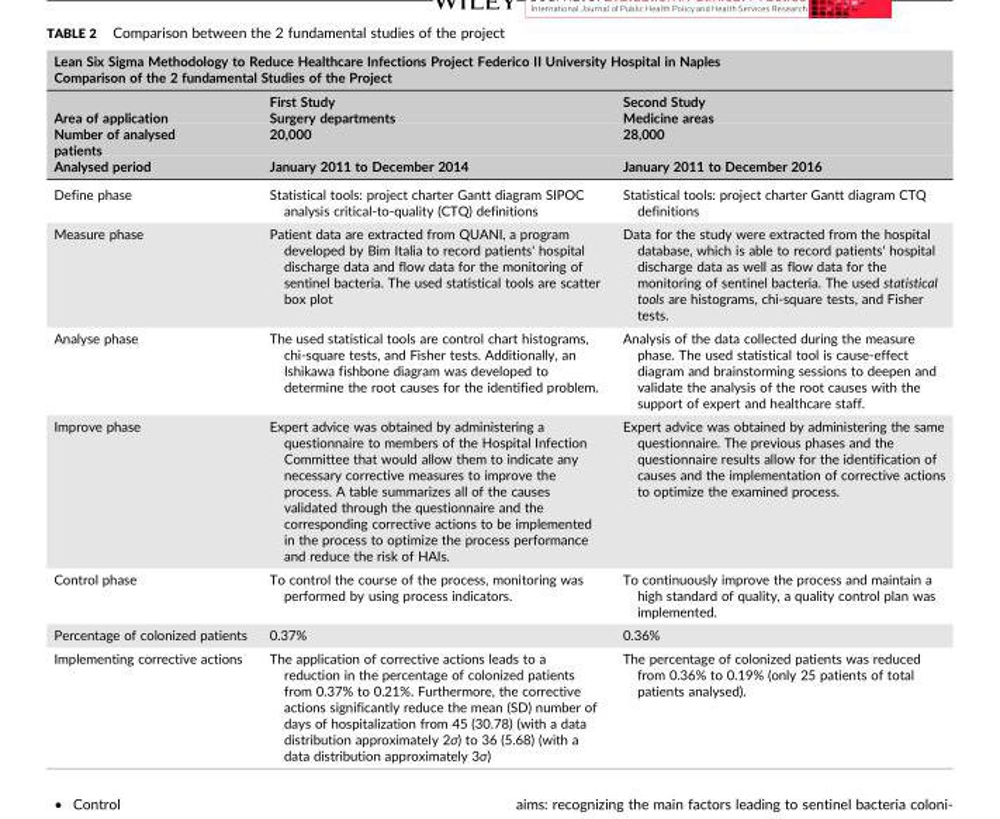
<table><thead><tr><td rowspan="2" colspan="3">Lean Six Sigma Methodology to Reduce Healthcare Infections Project Federico II University Hospital in Naples Comparison of the 2 fundamental Studies of the Project</td></tr><tr></tr><tr><td rowspan="4">Area of application Number of analysed patients Analysed period</td><td rowspan="4">First Study Surgery departments 20,000 January 2011 to December 2014</td><td rowspan="4">Second Study Medicine areas 28,000 January 2011 to December 2016</td></tr><tr></tr><tr></tr><tr></tr></thead><tbody><tr><td>Define phase</td><td>Statistical tools: project charter Gantt diagram SIPOC analysis critical‐to‐quality (CTQ) definitions</td><td>Statistical tools: project charter Gantt diagram CTQ definitions</td></tr><tr><td>Measure phase</td><td>Patient data are extracted from QUANI, a program developed by Bim Italia to record patients&#x27; hospital discharge data and flow data for the monitoring of sentinel bacteria. The used statistical tools are scatter box plot</td><td>Data for the study were extracted from the hospital database, which is able to record patients&#x27; hospital discharge data as well as flow data for the monitoring of sentinel bacteria. The used statistical tools are histograms, chi‐square tests, and Fisher tests.</td></tr><tr><td>Analyse phase</td><td>The used statistical tools are control chart histograms, chi‐square tests, and Fisher tests. Additionally, an Ishikawa fishbone diagram was developed to determine the root causes for the identified problem.</td><td>Analysis of the data collected during the measure phase. The used statistical tool is cause‐effect diagram and brainstorming sessions to deepen and validate the analysis of the root causes with the support of expert and healthcare staff.</td></tr><tr><td>Improve phase</td><td>Expert advice was obtained by administering a questionnaire to members of the Hospital Infection Committee that would allow them to indicate any necessary corrective measures to improve the process. A table summarizes all of the causes validated through the questionnaire and the corresponding corrective actions to be implemented in the process to optimize the process performance and reduce the risk of HAIs.</td><td>Expert advice was obtained by administering the same questionnaire. The previous phases and the questionnaire results allow for the identification of causes and the implementation of corrective actions to optimize the examined process.</td></tr><tr><td>Control phase</td><td>To control the course of the process, monitoring was performed by using process indicators.</td><td>To continuously improve the process and maintain a high standard of quality, a quality control plan was implemented.</td></tr><tr><td>Percentage of colonized patients</td><td>0.37%</td><td>0.36%</td></tr><tr><td>Implementing corrective actions</td><td>The application of corrective actions leads to a reduction in the percentage of colonized patients from 0.37% to 0.21%. Furthermore, the corrective actions significantly reduce the mean (SD) number of days of hospitalization from 45 (30.78) (with a data distribution approximately 2σ) to 36 (5.68) (with a data distribution approximately 3σ)</td><td>The percentage of colonized patients was reduced from 0.36% to 0.19% (only 25 patients of total patients analysed).</td></tr></tbody></table>